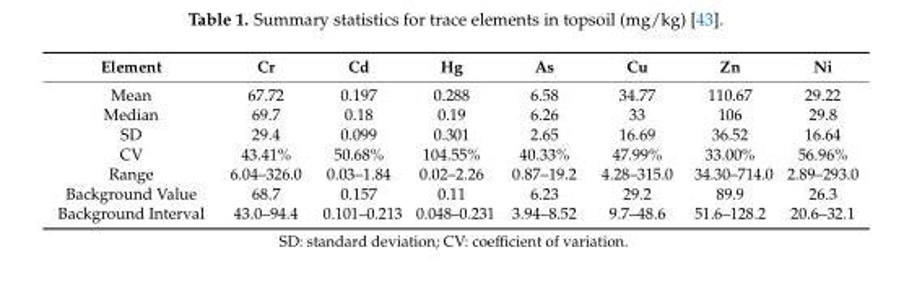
<table><thead><tr><td>Element</td><td>Cr</td><td>Cd</td><td>Hg</td><td>As</td><td>Cu</td><td>Zn</td><td>Ni</td></tr></thead><tbody><tr><td>Mean</td><td>67.72</td><td>0.197</td><td>0.288</td><td>6.58</td><td>34.77</td><td>110.67</td><td>29.22</td></tr><tr><td>Median</td><td>69.7</td><td>0.18</td><td>0.19</td><td>6.26</td><td>33</td><td>106</td><td>29.8</td></tr><tr><td>SD</td><td>29.4</td><td>0.099</td><td>0.301</td><td>2.65</td><td>16.69</td><td>36.52</td><td>16.64</td></tr><tr><td>CV</td><td>43.41%</td><td>50.68%</td><td>104.55%</td><td>40.33%</td><td>47.99%</td><td>33.00%</td><td>56.96%</td></tr><tr><td>Range</td><td>6.04–326.0</td><td>0.03–1.84</td><td>0.02–2.26</td><td>0.87–19.2</td><td>4.28–315.0</td><td>34.30–714.0</td><td>2.89–293.0</td></tr><tr><td>Background Value</td><td>68.7</td><td>0.157</td><td>0.11</td><td>6.23</td><td>29.2</td><td>89.9</td><td>26.3</td></tr><tr><td>Background Interval</td><td>43.0–94.4</td><td>0.101–0.213</td><td>0.048–0.231</td><td>3.94–8.52</td><td>9.7–48.6</td><td>51.6–128.2</td><td>20.6–32.1</td></tr></tbody></table>